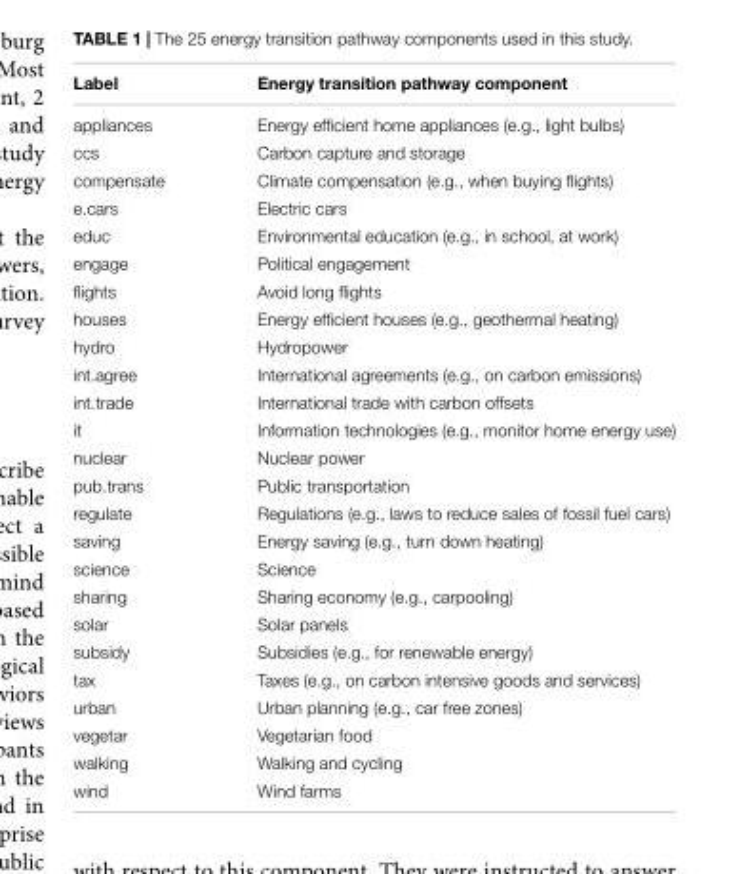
<table><thead><tr><td>Label</td><td>Energy transition pathway component</td></tr></thead><tbody><tr><td>appliances</td><td>Energy efficient home appliances (e.g., light bulbs)</td></tr><tr><td>ccs</td><td>Carbon capture and storage</td></tr><tr><td>compensate</td><td>Climate compensation (e.g., when buying flights)</td></tr><tr><td>e.cars</td><td>Electric cars</td></tr><tr><td>educ</td><td>Environmental education (e.g., in school, at work)</td></tr><tr><td>engage</td><td>Political engagement</td></tr><tr><td>flights</td><td>Avoid long flights</td></tr><tr><td>houses</td><td>Energy efficient houses (e.g., geothermal heating)</td></tr><tr><td>hydro</td><td>Hydropower</td></tr><tr><td>int.agree</td><td>International agreements (e.g., on carbon emissions)</td></tr><tr><td>int.trade</td><td>International trade with carbon offsets</td></tr><tr><td>it</td><td>Information technologies (e.g., monitor home energy use)</td></tr><tr><td>nuclear</td><td>Nuclear power</td></tr><tr><td>pub.trans</td><td>Public transportation</td></tr><tr><td>regulate</td><td>Regulations (e.g., laws to reduce sales of fossil fuel cars)</td></tr><tr><td>saving</td><td>Energy saving (e.g., turn down heating)</td></tr><tr><td>science</td><td>Science</td></tr><tr><td>sharing</td><td>Sharing economy (e.g., carpooling)</td></tr><tr><td>solar</td><td>Solar panels</td></tr><tr><td>subsidy</td><td>Subsidies (e.g., for renewable energy)</td></tr><tr><td>tax</td><td>Taxes (e.g., on carbon intensive goods and services)</td></tr><tr><td>urban</td><td>Urban planning (e.g., car free zones)</td></tr><tr><td>vegetar</td><td>Vegetarian food</td></tr><tr><td>walking</td><td>Walking and cycling</td></tr><tr><td>wind</td><td>Wind farms</td></tr></tbody></table>